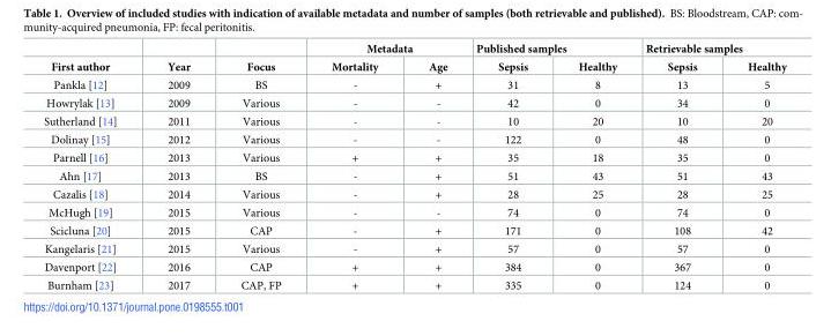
<table><thead><tr><td rowspan="2">First author</td><td rowspan="2">Year</td><td rowspan="2">Focus</td><td colspan="2">Metadata</td><td colspan="2">Published samples</td><td colspan="2">Retrievable samples</td></tr><tr><td>Mortality</td><td>Age</td><td>Sepsis</td><td>Healthy</td><td>Sepsis</td><td>Healthy</td></tr></thead><tbody><tr><td>Pankla [12]</td><td>2009</td><td>BS</td><td>-</td><td>+</td><td>31</td><td>8</td><td>13</td><td>5</td></tr><tr><td>Howrylak [13]</td><td>2009</td><td>Various</td><td>-</td><td>-</td><td>42</td><td>0</td><td>34</td><td>0</td></tr><tr><td>Sutherland [14]</td><td>2011</td><td>Various</td><td>-</td><td>-</td><td>10</td><td>20</td><td>10</td><td>20</td></tr><tr><td>Dolinay [15]</td><td>2012</td><td>Various</td><td>-</td><td>-</td><td>122</td><td>0</td><td>48</td><td>0</td></tr><tr><td>Parnell [16]</td><td>2013</td><td>Various</td><td>+</td><td>+</td><td>35</td><td>18</td><td>35</td><td>0</td></tr><tr><td>Ahn [17]</td><td>2013</td><td>BS</td><td>-</td><td>+</td><td>51</td><td>43</td><td>51</td><td>43</td></tr><tr><td>Cazalis [18]</td><td>2014</td><td>Various</td><td>-</td><td>+</td><td>28</td><td>25</td><td>28</td><td>25</td></tr><tr><td>McHugh [19]</td><td>2015</td><td>Various</td><td>-</td><td>-</td><td>74</td><td>0</td><td>74</td><td>0</td></tr><tr><td>Scicluna [20]</td><td>2015</td><td>CAP</td><td>-</td><td>+</td><td>171</td><td>0</td><td>108</td><td>42</td></tr><tr><td>Kangelaris [21]</td><td>2015</td><td>Various</td><td>-</td><td>+</td><td>57</td><td>0</td><td>57</td><td>0</td></tr><tr><td>Davenport [22]</td><td>2016</td><td>CAP</td><td>+</td><td>+</td><td>384</td><td>0</td><td>367</td><td>0</td></tr><tr><td>Burnham [23]</td><td>2017</td><td>CAP, FP</td><td>+</td><td>+</td><td>335</td><td>0</td><td>124</td><td>0</td></tr></tbody></table>